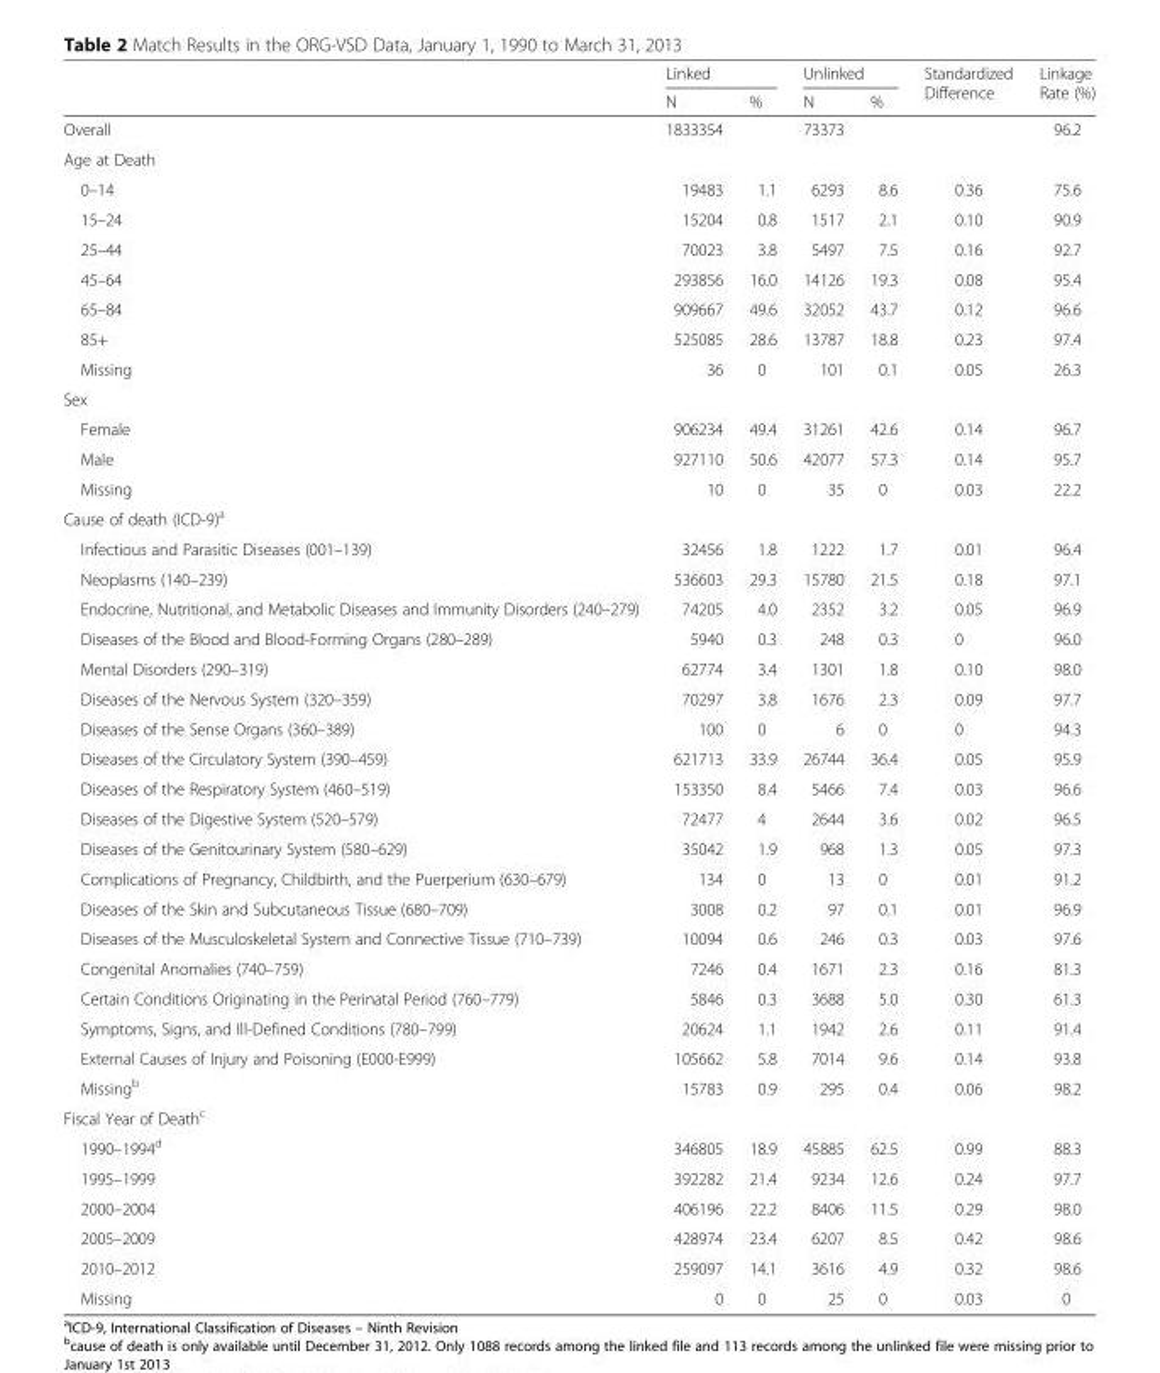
<table><thead><tr><td rowspan="2"></td><td colspan="2">Linked</td><td colspan="2">Unlinked</td><td rowspan="2">Standardized Difference</td><td rowspan="2">Linkage Rate (%)</td></tr><tr><td>N</td><td>%</td><td>N</td><td>%</td></tr></thead><tbody><tr><td>Overall</td><td>1833354</td><td></td><td>73373</td><td></td><td></td><td>96.2</td></tr><tr><td colspan="7">Age at Death</td></tr><tr><td>0–14</td><td>19483</td><td>1.1</td><td>6293</td><td>8.6</td><td>0.36</td><td>75.6</td></tr><tr><td>15–24</td><td>15204</td><td>0.8</td><td>1517</td><td>2.1</td><td>0.10</td><td>90.9</td></tr><tr><td>25–44</td><td>70023</td><td>3.8</td><td>5497</td><td>7.5</td><td>0.16</td><td>92.7</td></tr><tr><td>45–64</td><td>293856</td><td>16.0</td><td>14126</td><td>19.3</td><td>0.08</td><td>95.4</td></tr><tr><td>65–84</td><td>909667</td><td>49.6</td><td>32052</td><td>43.7</td><td>0.12</td><td>96.6</td></tr><tr><td>85+</td><td>525085</td><td>28.6</td><td>13787</td><td>18.8</td><td>0.23</td><td>97.4</td></tr><tr><td>Missing</td><td>36</td><td>0</td><td>101</td><td>0.1</td><td>0.05</td><td>26.3</td></tr><tr><td colspan="7">Sex</td></tr><tr><td>Female</td><td>906234</td><td>49.4</td><td>31261</td><td>42.6</td><td>0.14</td><td>96.7</td></tr><tr><td>Male</td><td>927110</td><td>50.6</td><td>42077</td><td>57.3</td><td>0.14</td><td>95.7</td></tr><tr><td>Missing</td><td>10</td><td>0</td><td>35</td><td>0</td><td>0.03</td><td>22.2</td></tr><tr><td colspan="7">Cause of death (ICD-9)<sup>a</sup></td></tr><tr><td>Infectious and Parasitic Diseases (001–139)</td><td>32456</td><td>1.8</td><td>1222</td><td>1.7</td><td>0.01</td><td>96.4</td></tr><tr><td>Neoplasms (140–239)</td><td>536603</td><td>29.3</td><td>15780</td><td>21.5</td><td>0.18</td><td>97.1</td></tr><tr><td>Endocrine, Nutritional, and Metabolic Diseases and Immunity Disorders (240–279)</td><td>74205</td><td>4.0</td><td>2352</td><td>3.2</td><td>0.05</td><td>96.9</td></tr><tr><td>Diseases of the Blood and Blood-Forming Organs (280–289)</td><td>5940</td><td>0.3</td><td>248</td><td>0.3</td><td>0</td><td>96.0</td></tr><tr><td>Mental Disorders (290–319)</td><td>62774</td><td>3.4</td><td>1301</td><td>1.8</td><td>0.10</td><td>98.0</td></tr><tr><td>Diseases of the Nervous System (320–359)</td><td>70297</td><td>3.8</td><td>1676</td><td>2.3</td><td>0.09</td><td>97.7</td></tr><tr><td>Diseases of the Sense Organs (360–389)</td><td>100</td><td>0</td><td>6</td><td>0</td><td>0</td><td>94.3</td></tr><tr><td>Diseases of the Circulatory System (390–459)</td><td>621713</td><td>33.9</td><td>26744</td><td>36.4</td><td>0.05</td><td>95.9</td></tr><tr><td>Diseases of the Respiratory System (460–519)</td><td>153350</td><td>8.4</td><td>5466</td><td>7.4</td><td>0.03</td><td>96.6</td></tr><tr><td>Diseases of the Digestive System (520–579)</td><td>72477</td><td>4</td><td>2644</td><td>3.6</td><td>0.02</td><td>96.5</td></tr><tr><td>Diseases of the Genitourinary System (580–629)</td><td>35042</td><td>1.9</td><td>968</td><td>1.3</td><td>0.05</td><td>97.3</td></tr><tr><td>Complications of Pregnancy, Childbirth, and the Puerperium (630–679)</td><td>134</td><td>0</td><td>13</td><td>0</td><td>0.01</td><td>91.2</td></tr><tr><td>Diseases of the Skin and Subcutaneous Tissue (680–709)</td><td>3008</td><td>0.2</td><td>97</td><td>0.1</td><td>0.01</td><td>96.9</td></tr><tr><td>Diseases of the Musculoskeletal System and Connective Tissue (710–739)</td><td>10094</td><td>0.6</td><td>246</td><td>0.3</td><td>0.03</td><td>97.6</td></tr><tr><td>Congenital Anomalies (740–759)</td><td>7246</td><td>0.4</td><td>1671</td><td>2.3</td><td>0.16</td><td>81.3</td></tr><tr><td>Certain Conditions Originating in the Perinatal Period (760–779)</td><td>5846</td><td>0.3</td><td>3688</td><td>5.0</td><td>0.30</td><td>61.3</td></tr><tr><td>Symptoms, Signs, and Ill-Defined Conditions (780–799)</td><td>20624</td><td>1.1</td><td>1942</td><td>2.6</td><td>0.11</td><td>91.4</td></tr><tr><td>External Causes of Injury and Poisoning (E000-E999)</td><td>105662</td><td>5.8</td><td>7014</td><td>9.6</td><td>0.14</td><td>93.8</td></tr><tr><td>Missing<sup>b</sup></td><td>15783</td><td>0.9</td><td>295</td><td>0.4</td><td>0.06</td><td>98.2</td></tr><tr><td colspan="7">Fiscal Year of Death<sup>c</sup></td></tr><tr><td>1990–1994<sup>d</sup></td><td>346805</td><td>18.9</td><td>45885</td><td>62.5</td><td>0.99</td><td>88.3</td></tr><tr><td>1995–1999</td><td>392282</td><td>21.4</td><td>9234</td><td>12.6</td><td>0.24</td><td>97.7</td></tr><tr><td>2000–2004</td><td>406196</td><td>22.2</td><td>8406</td><td>11.5</td><td>0.29</td><td>98.0</td></tr><tr><td>2005–2009</td><td>428974</td><td>23.4</td><td>6207</td><td>8.5</td><td>0.42</td><td>98.6</td></tr><tr><td>2010–2012</td><td>259097</td><td>14.1</td><td>3616</td><td>4.9</td><td>0.32</td><td>98.6</td></tr><tr><td>Missing</td><td>0</td><td>0</td><td>25</td><td>0</td><td>0.03</td><td>0</td></tr></tbody></table>